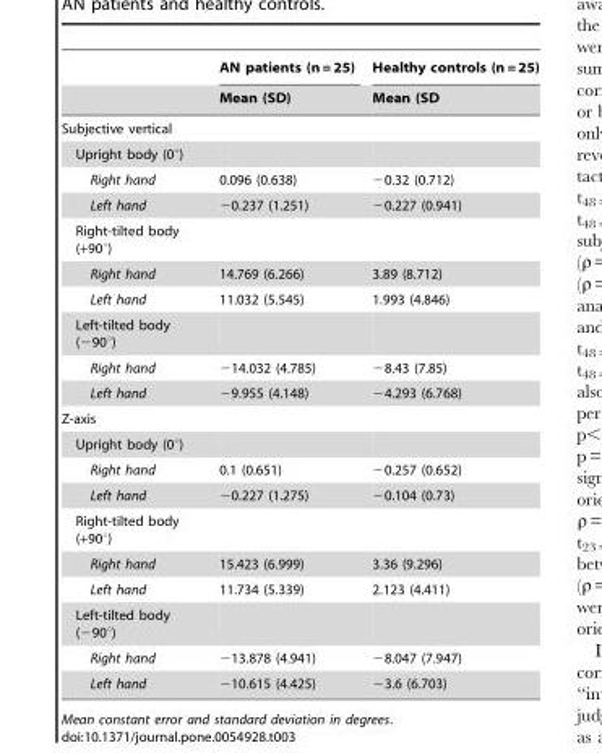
<table><thead><tr><td rowspan="2"></td><td rowspan="2">AN patients (n = 25) Mean (SD)</td><td rowspan="2">Healthy controls (n = 25) Mean (SD</td></tr><tr></tr></thead><tbody><tr><td colspan="3">Subjective vertical</td></tr><tr><td colspan="3">Upright body (0°)</td></tr><tr><td>Right hand</td><td>0.096 (0.638)</td><td>−0.32 (0.712)</td></tr><tr><td>Left hand</td><td>−0.237 (1.251)</td><td>−0.227 (0.941)</td></tr><tr><td colspan="3">Right-tilted body (+90°)</td></tr><tr><td>Right hand</td><td>14.769 (6.266)</td><td>3.89 (8.712)</td></tr><tr><td>Left hand</td><td>11.032 (5.545)</td><td>1.993 (4.846)</td></tr><tr><td colspan="3">Left-tilted body (−90°)</td></tr><tr><td>Right hand</td><td>−14.032 (4.785)</td><td>−8.43 (7.85)</td></tr><tr><td>Left hand</td><td>−9.955 (4.148)</td><td>−4.293 (6.768)</td></tr><tr><td colspan="3">Z-axis</td></tr><tr><td colspan="3">Upright body (0°)</td></tr><tr><td>Right hand</td><td>0.1 (0.651)</td><td>−0.257 (0.652)</td></tr><tr><td>Left hand</td><td>−0.227 (1.275)</td><td>−0.104 (0.73)</td></tr><tr><td colspan="3">Right-tilted body (+90°)</td></tr><tr><td>Right hand</td><td>15.423 (6.999)</td><td>3.36 (9.296)</td></tr><tr><td>Left hand</td><td>11.734 (5.339)</td><td>2.123 (4.411)</td></tr><tr><td colspan="3">Left-tilted body (−90°)</td></tr><tr><td>Right hand</td><td>−13.878 (4.941)</td><td>−8.047 (7.947)</td></tr><tr><td>Left hand</td><td>−10.615 (4.425)</td><td>−3.6 (6.703)</td></tr></tbody></table>